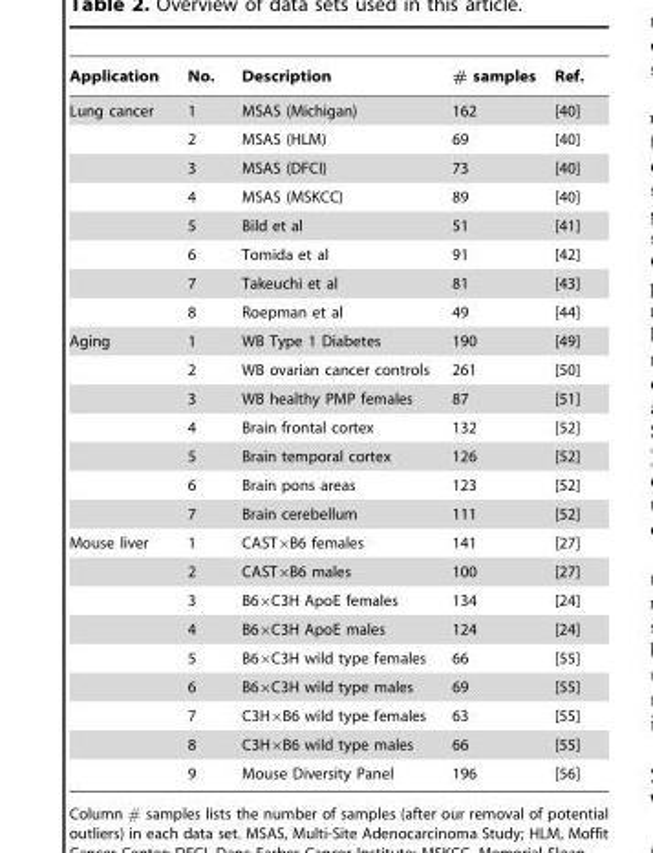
<table><thead><tr><td>Application</td><td>No.</td><td>Description</td><td># samples</td><td>Ref.</td></tr></thead><tbody><tr><td rowspan="8">Lung cancer</td><td>1</td><td>MSAS (Michigan)</td><td>162</td><td>[40]</td></tr><tr><td>2</td><td>MSAS (HLM)</td><td>69</td><td>[40]</td></tr><tr><td>3</td><td>MSAS (DFCI)</td><td>73</td><td>[40]</td></tr><tr><td>4</td><td>MSAS (MSKCC)</td><td>89</td><td>[40]</td></tr><tr><td>5</td><td>Bild et al</td><td>51</td><td>[41]</td></tr><tr><td>6</td><td>Tomida et al</td><td>91</td><td>[42]</td></tr><tr><td>7</td><td>Takeuchi et al</td><td>81</td><td>[43]</td></tr><tr><td>8</td><td>Roepman et al</td><td>49</td><td>[44]</td></tr><tr><td rowspan="7">Aging</td><td>1</td><td>WB Type 1 Diabetes</td><td>190</td><td>[49]</td></tr><tr><td>2</td><td>WB ovarian cancer controls</td><td>261</td><td>[50]</td></tr><tr><td>3</td><td>WB healthy PMP females</td><td>87</td><td>[51]</td></tr><tr><td>4</td><td>Brain frontal cortex</td><td>132</td><td>[52]</td></tr><tr><td>5</td><td>Brain temporal cortex</td><td>126</td><td>[52]</td></tr><tr><td>6</td><td>Brain pons areas</td><td>123</td><td>[52]</td></tr><tr><td>7</td><td>Brain cerebellum</td><td>111</td><td>[52]</td></tr><tr><td rowspan="9">Mouse liver</td><td>1</td><td>CAST×B6 females</td><td>141</td><td>[27]</td></tr><tr><td>2</td><td>CAST×B6 males</td><td>100</td><td>[27]</td></tr><tr><td>3</td><td>B6×C3H ApoE females</td><td>134</td><td>[24]</td></tr><tr><td>4</td><td>B6×C3H ApoE males</td><td>124</td><td>[24]</td></tr><tr><td>5</td><td>B6×C3H wild type females</td><td>66</td><td>[55]</td></tr><tr><td>6</td><td>B6×C3H wild type males</td><td>69</td><td>[55]</td></tr><tr><td>7</td><td>C3H×B6 wild type females</td><td>63</td><td>[55]</td></tr><tr><td>8</td><td>C3H×B6 wild type males</td><td>66</td><td>[55]</td></tr><tr><td>9</td><td>Mouse Diversity Panel</td><td>196</td><td>[56]</td></tr></tbody></table>